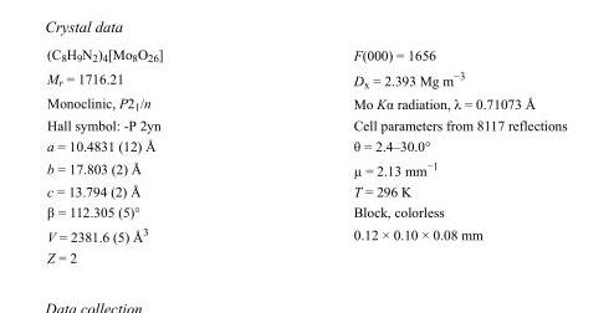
<table><tbody><tr><td>(C<sub>8</sub>H<sub>9</sub>N<sub>2</sub>)<sub>4</sub>[Mo<sub>8</sub>O<sub>26</sub>]</td><td>F(000) = 1656</td></tr><tr><td>M<sub>r</sub> = 1716.21</td><td>D<sub>x</sub> = 2.393 Mg m<sup>−3</sup></td></tr><tr><td>Monoclinic, P2<sub>1</sub>/n</td><td>Mo Kα radiation, λ = 0.71073 Å</td></tr><tr><td>Hall symbol: -P 2yn</td><td>Cell parameters from 8117 reflections</td></tr><tr><td>a = 10.4831 (12) Å</td><td>θ = 2.4–30.0°</td></tr><tr><td>b = 17.803 (2) Å</td><td>µ = 2.13 mm<sup>−1</sup></td></tr><tr><td>c = 13.794 (2) Å</td><td>T = 296 K</td></tr><tr><td>β = 112.305 (5)°</td><td>Block, colorless</td></tr><tr><td>V = 2381.6 (5) Å<sup>3</sup></td><td>0.12 × 0.10 × 0.08 mm</td></tr><tr><td>Z = 2</td><td></td></tr></tbody></table>